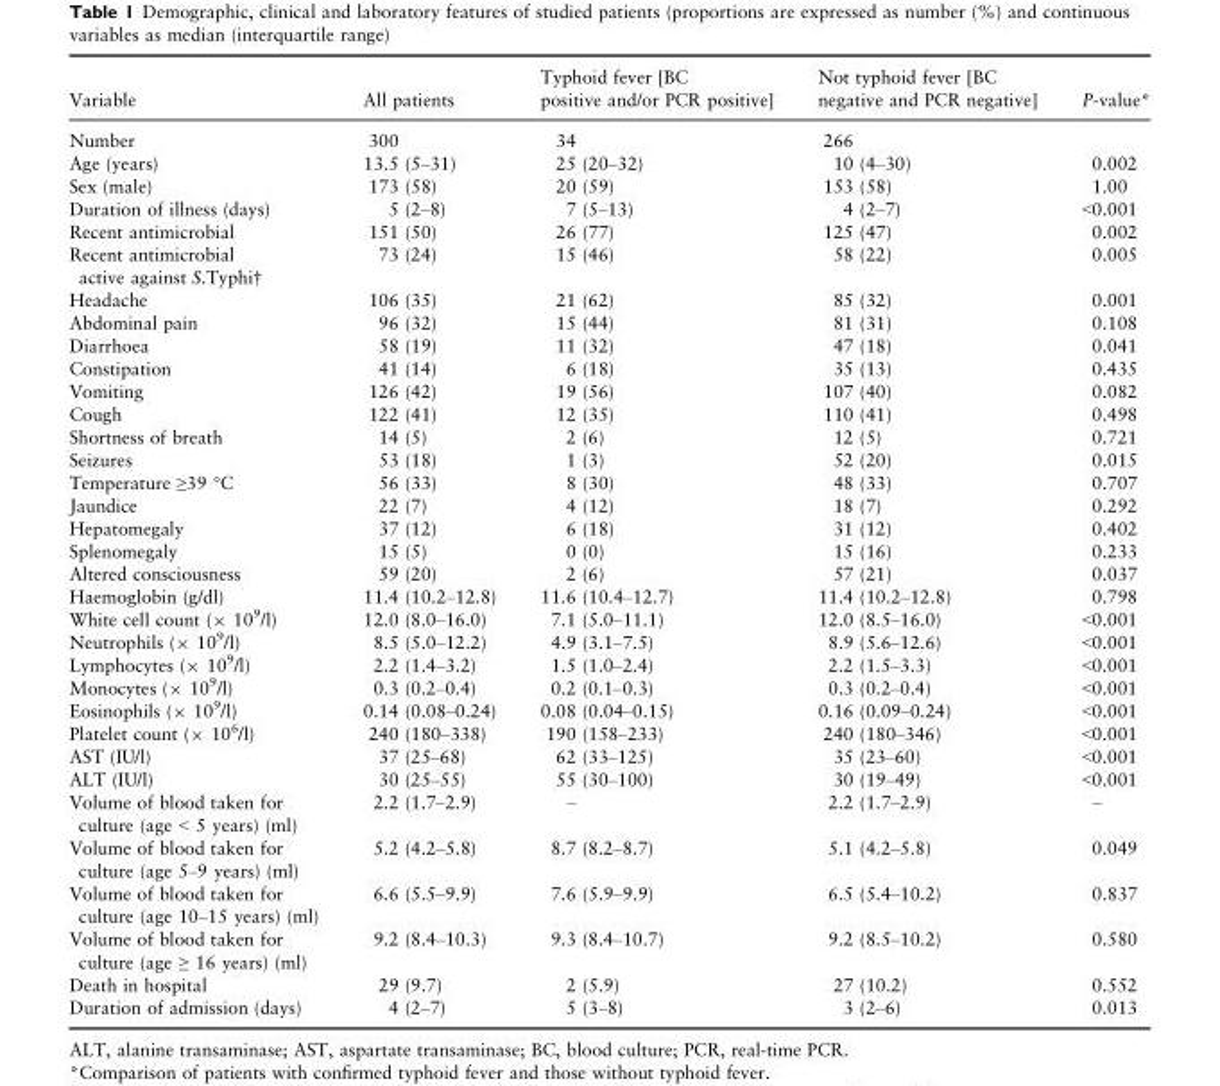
<table><thead><tr><td>Variable</td><td>All patients</td><td>Typhoid fever [BC positive and/or PCR positive]</td><td>Not typhoid fever [BC negative and PCR negative]</td><td>P-value*</td></tr></thead><tbody><tr><td>Number</td><td>300</td><td>34</td><td>266</td><td></td></tr><tr><td>Age (years)</td><td>13.5 (5–31)</td><td>25 (20–32)</td><td>10 (4–30)</td><td>0.002</td></tr><tr><td>Sex (male)</td><td>173 (58)</td><td>20 (59)</td><td>153 (58)</td><td>1.00</td></tr><tr><td>Duration of illness (days)</td><td>5 (2–8)</td><td>7 (5–13)</td><td>4 (2–7)</td><td>&lt;0.001</td></tr><tr><td>Recent antimicrobial</td><td>151 (50)</td><td>26 (77)</td><td>125 (47)</td><td>0.002</td></tr><tr><td>Recent antimicrobial active against S.Typhi†</td><td>73 (24)</td><td>15 (46)</td><td>58 (22)</td><td>0.005</td></tr><tr><td>Headache</td><td>106 (35)</td><td>21 (62)</td><td>85 (32)</td><td>0.001</td></tr><tr><td>Abdominal pain</td><td>96 (32)</td><td>15 (44)</td><td>81 (31)</td><td>0.108</td></tr><tr><td>Diarrhoea</td><td>58 (19)</td><td>11 (32)</td><td>47 (18)</td><td>0.041</td></tr><tr><td>Constipation</td><td>41 (14)</td><td>6 (18)</td><td>35 (13)</td><td>0.435</td></tr><tr><td>Vomiting</td><td>126 (42)</td><td>19 (56)</td><td>107 (40)</td><td>0.082</td></tr><tr><td>Cough</td><td>122 (41)</td><td>12 (35)</td><td>110 (41)</td><td>0.498</td></tr><tr><td>Shortness of breath</td><td>14 (5)</td><td>2 (6)</td><td>12 (5)</td><td>0.721</td></tr><tr><td>Seizures</td><td>53 (18)</td><td>1 (3)</td><td>52 (20)</td><td>0.015</td></tr><tr><td>Temperature ≥39 °C</td><td>56 (33)</td><td>8 (30)</td><td>48 (33)</td><td>0.707</td></tr><tr><td>Jaundice</td><td>22 (7)</td><td>4 (12)</td><td>18 (7)</td><td>0.292</td></tr><tr><td>Hepatomegaly</td><td>37 (12)</td><td>6 (18)</td><td>31 (12)</td><td>0.402</td></tr><tr><td>Splenomegaly</td><td>15 (5)</td><td>0 (0)</td><td>15 (16)</td><td>0.233</td></tr><tr><td>Altered consciousness</td><td>59 (20)</td><td>2 (6)</td><td>57 (21)</td><td>0.037</td></tr><tr><td>Haemoglobin (g/dl)</td><td>11.4 (10.2–12.8)</td><td>11.6 (10.4–12.7)</td><td>11.4 (10.2–12.8)</td><td>0.798</td></tr><tr><td>White cell count (× 10<sup>9</sup>/l)</td><td>12.0 (8.0–16.0)</td><td>7.1 (5.0–11.1)</td><td>12.0 (8.5–16.0)</td><td>&lt;0.001</td></tr><tr><td>Neutrophils (× 10<sup>9</sup>/l)</td><td>8.5 (5.0–12.2)</td><td>4.9 (3.1–7.5)</td><td>8.9 (5.6–12.6)</td><td>&lt;0.001</td></tr><tr><td>Lymphocytes (× 10<sup>9</sup>/l)</td><td>2.2 (1.4–3.2)</td><td>1.5 (1.0–2.4)</td><td>2.2 (1.5–3.3)</td><td>&lt;0.001</td></tr><tr><td>Monocytes (× 10<sup>9</sup>/l)</td><td>0.3 (0.2–0.4)</td><td>0.2 (0.1–0.3)</td><td>0.3 (0.2–0.4)</td><td>&lt;0.001</td></tr><tr><td>Eosinophils (× 10<sup>9</sup>/l)</td><td>0.14 (0.08–0.24)</td><td>0.08 (0.04–0.15)</td><td>0.16 (0.09–0.24)</td><td>&lt;0.001</td></tr><tr><td>Platelet count (× 10<sup>6</sup>/l)</td><td>240 (180–338)</td><td>190 (158–233)</td><td>240 (180–346)</td><td>&lt;0.001</td></tr><tr><td>AST (IU/l)</td><td>37 (25–68)</td><td>62 (33–125)</td><td>35 (23–60)</td><td>&lt;0.001</td></tr><tr><td>ALT (IU/l)</td><td>30 (25–55)</td><td>55 (30–100)</td><td>30 (19–49)</td><td>&lt;0.001</td></tr><tr><td>Volume of blood taken for culture (age &lt; 5 years) (ml)</td><td>2.2 (1.7–2.9)</td><td>–</td><td>2.2 (1.7–2.9)</td><td>–</td></tr><tr><td>Volume of blood taken for culture (age 5–9 years) (ml)</td><td>5.2 (4.2–5.8)</td><td>8.7 (8.2–8.7)</td><td>5.1 (4.2–5.8)</td><td>0.049</td></tr><tr><td>Volume of blood taken for culture (age 10–15 years) (ml)</td><td>6.6 (5.5–9.9)</td><td>7.6 (5.9–9.9)</td><td>6.5 (5.4–10.2)</td><td>0.837</td></tr><tr><td>Volume of blood taken for culture (age ≥ 16 years) (ml)</td><td>9.2 (8.4–10.3)</td><td>9.3 (8.4–10.7)</td><td>9.2 (8.5–10.2)</td><td>0.580</td></tr><tr><td>Death in hospital</td><td>29 (9.7)</td><td>2 (5.9)</td><td>27 (10.2)</td><td>0.552</td></tr><tr><td>Duration of admission (days)</td><td>4 (2–7)</td><td>5 (3–8)</td><td>3 (2–6)</td><td>0.013</td></tr></tbody></table>